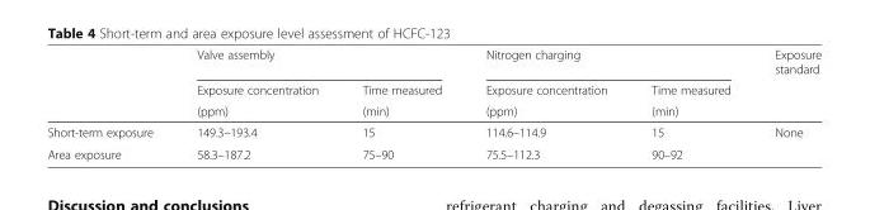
<table><thead><tr><td rowspan="3"></td><td colspan="2">Valve assembly</td><td colspan="2">Nitrogen charging</td><td rowspan="3">Exposure standard</td></tr><tr><td rowspan="2">Exposure concentration (ppm)</td><td rowspan="2">Time measured (min)</td><td rowspan="2">Exposure concentration (ppm)</td><td rowspan="2">Time measured (min)</td></tr><tr></tr></thead><tbody><tr><td>Short-term exposure</td><td>149.3–193.4</td><td>15</td><td>114.6–114.9</td><td>15</td><td rowspan="2">None</td></tr><tr><td>Area exposure</td><td>58.3–187.2</td><td>75–90</td><td>75.5–112.3</td><td>90–92</td></tr></tbody></table>